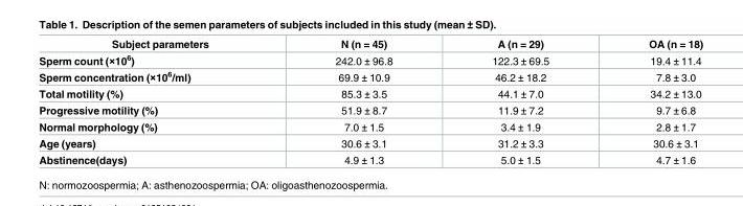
<table><thead><tr><td>Subject parameters</td><td>N (n = 45)</td><td>A (n = 29)</td><td>OA (n = 18)</td></tr></thead><tbody><tr><td>Sperm count (×10<sup>6</sup>)</td><td>242.0 ± 96.8</td><td>122.3 ± 69.5</td><td>19.4 ± 11.4</td></tr><tr><td>Sperm concentration (×10<sup>6</sup>/ml)</td><td>69.9 ± 10.9</td><td>46.2 ± 18.2</td><td>7.8 ± 3.0</td></tr><tr><td>Total motility (%)</td><td>85.3 ± 3.5</td><td>44.1 ± 7.0</td><td>34.2 ± 13.0</td></tr><tr><td>Progressive motility (%)</td><td>51.9 ± 8.7</td><td>11.9 ± 7.2</td><td>9.7 ± 6.8</td></tr><tr><td>Normal morphology (%)</td><td>7.0 ± 1.5</td><td>3.4 ± 1.9</td><td>2.8 ± 1.7</td></tr><tr><td>Age (years)</td><td>30.6 ± 3.1</td><td>31.2 ± 3.3</td><td>30.6 ± 3.1</td></tr><tr><td>Abstinence(days)</td><td>4.9 ± 1.3</td><td>5.0 ± 1.5</td><td>4.7 ± 1.6</td></tr></tbody></table>